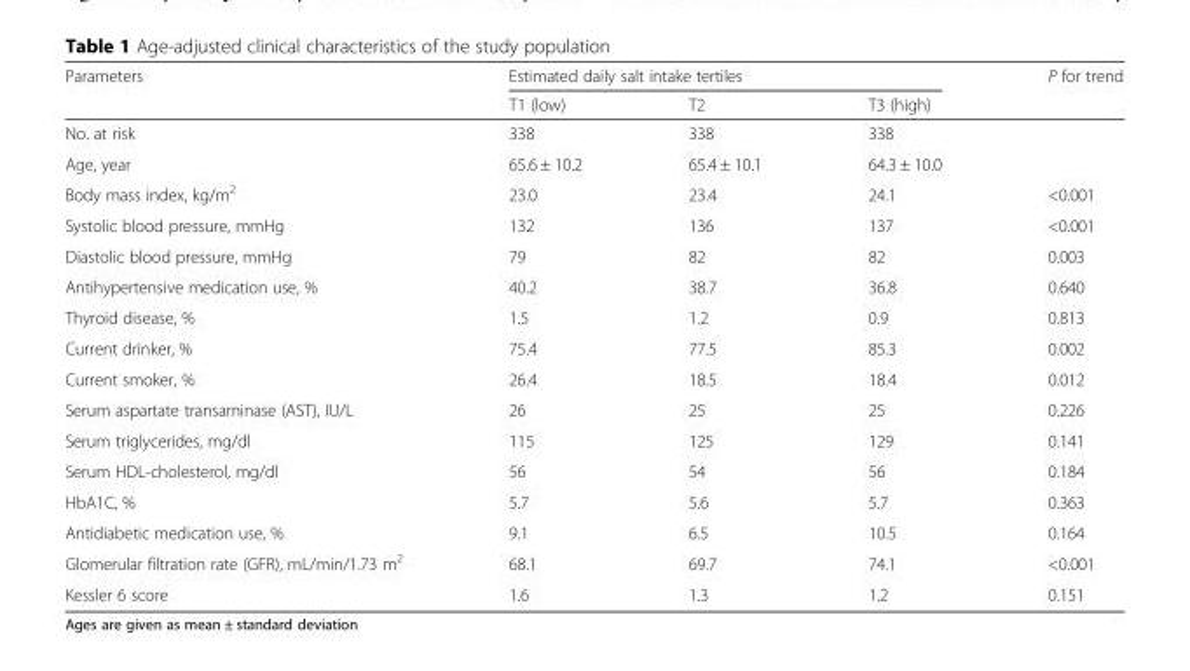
<table><thead><tr><td rowspan="2">Parameters</td><td colspan="3">Estimated daily salt intake tertiles</td><td rowspan="2">P for trend</td></tr><tr><td>T1 (low)</td><td>T2</td><td>T3 (high)</td></tr></thead><tbody><tr><td>No. at risk</td><td>338</td><td>338</td><td>338</td><td></td></tr><tr><td>Age, year</td><td>65.6 ± 10.2</td><td>65.4 ± 10.1</td><td>64.3 ± 10.0</td><td></td></tr><tr><td>Body mass index, kg/m<sup>2</sup></td><td>23.0</td><td>23.4</td><td>24.1</td><td>&lt;0.001</td></tr><tr><td>Systolic blood pressure, mmHg</td><td>132</td><td>136</td><td>137</td><td>&lt;0.001</td></tr><tr><td>Diastolic blood pressure, mmHg</td><td>79</td><td>82</td><td>82</td><td>0.003</td></tr><tr><td>Antihypertensive medication use, %</td><td>40.2</td><td>38.7</td><td>36.8</td><td>0.640</td></tr><tr><td>Thyroid disease, %</td><td>1.5</td><td>1.2</td><td>0.9</td><td>0.813</td></tr><tr><td>Current drinker, %</td><td>75.4</td><td>77.5</td><td>85.3</td><td>0.002</td></tr><tr><td>Current smoker, %</td><td>26.4</td><td>18.5</td><td>18.4</td><td>0.012</td></tr><tr><td>Serum aspartate transaminase (AST), IU/L</td><td>26</td><td>25</td><td>25</td><td>0.226</td></tr><tr><td>Serum triglycerides, mg/dl</td><td>115</td><td>125</td><td>129</td><td>0.141</td></tr><tr><td>Serum HDL-cholesterol, mg/dl</td><td>56</td><td>54</td><td>56</td><td>0.184</td></tr><tr><td>HbA1C, %</td><td>5.7</td><td>5.6</td><td>5.7</td><td>0.363</td></tr><tr><td>Antidiabetic medication use, %</td><td>9.1</td><td>6.5</td><td>10.5</td><td>0.164</td></tr><tr><td>Glomerular filtration rate (GFR), mL/min/1.73 m<sup>2</sup></td><td>68.1</td><td>69.7</td><td>74.1</td><td>&lt;0.001</td></tr><tr><td>Kessler 6 score</td><td>1.6</td><td>1.3</td><td>1.2</td><td>0.151</td></tr></tbody></table>